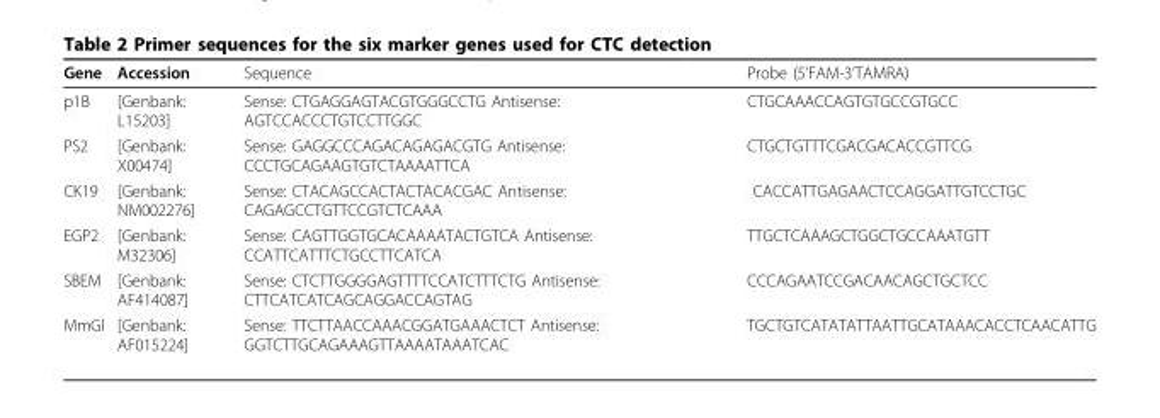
<table><thead><tr><td>Gene</td><td>Accession</td><td>Sequence</td><td>Probe (5’FAM-3’TAMRA)</td></tr></thead><tbody><tr><td>p1B</td><td>[Genbank: L15203]</td><td>Sense: CTGAGGAGTACGTGGGCCTG Antisense: AGTCCACCCTGTCCTTGGC</td><td>CTGCAAACCAGTGTGCCGTGCC</td></tr><tr><td>PS2</td><td>[Genbank: X00474]</td><td>Sense: GAGGCCCAGACAGAGACGTG Antisense: CCCTGCAGAAGTGTCTAAAATTCA</td><td>CTGCTGTTTCGACGACACCGTTCG</td></tr><tr><td>CK19</td><td>[Genbank: NM002276]</td><td>Sense: CTACAGCCACTACTACACGAC Antisense: CAGAGCCTGTTCCGTCTCAAA</td><td>CACCATTGAGAACTCCAGGATTGTCCTGC</td></tr><tr><td>EGP2</td><td>[Genbank: M32306]</td><td>Sense: CAGTTGGTGCACAAAATACTGTCA Antisense: CCATTCATTTCTGCCTTCATCA</td><td>TTGCTCAAAGCTGGCTGCCAAATGTT</td></tr><tr><td>SBEM</td><td>[Genbank: AF414087]</td><td>Sense: CTCTTGGGGAGTTTTCCATCTTTCTG Antisense: CTTCATCATCAGCAGGACCAGTAG</td><td>CCCAGAATCCGACAACAGCTGCTCC</td></tr><tr><td>MmGl</td><td>[Genbank: AF015224]</td><td>Sense: TTCTTAACCAAACGGATGAAACTCT Antisense: GGTCTTGCAGAAAGTTAAAATAAATCAC</td><td>TGCTGTCATATATTAATTGCATAAACACCTCAACATTG</td></tr></tbody></table>